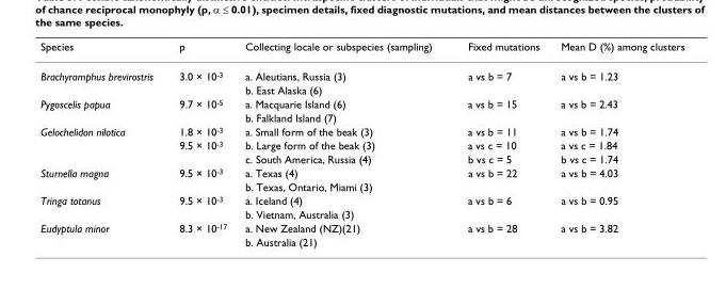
<table><thead><tr><td>Species</td><td>p</td><td>Collecting locale or subspecies (sampling)</td><td>Fixed mutations</td><td>Mean D (%) among clusters</td></tr></thead><tbody><tr><td rowspan="2">Brachyramphus brevirostris</td><td>3.0 × 10<sup>-3</sup></td><td>a. Aleutians, Russia (3)</td><td>a vs b = 7</td><td>a vs b = 1.23</td></tr><tr><td></td><td>b. East Alaska (6)</td><td></td><td></td></tr><tr><td rowspan="2">Pygoscelis papua</td><td>9.7 × 10<sup>-5</sup></td><td>a. Macquarie Island (6)</td><td>a vs b = 15</td><td>a vs b = 2.43</td></tr><tr><td></td><td>b. Falkland Island (7)</td><td></td><td></td></tr><tr><td rowspan="3">Gelochelidon nilotica</td><td>1.8 × 10<sup>-3</sup></td><td>a. Small form of the beak (3)</td><td>a vs b = 11</td><td>a vs b = 1.74</td></tr><tr><td>9.5 × 10<sup>-3</sup></td><td>b. Large form of the beak (3)</td><td>a vs c = 10</td><td>a vs c = 1.84</td></tr><tr><td></td><td>c. South America, Russia (4)</td><td>b vs c = 5</td><td>b vs c = 1.74</td></tr><tr><td rowspan="2">Sturnella magna</td><td>9.5 × 10<sup>-3</sup></td><td>a. Texas (4)</td><td>a vs b = 22</td><td>a vs b = 4.03</td></tr><tr><td></td><td>b. Texas, Ontario, Miami (3)</td><td></td><td></td></tr><tr><td rowspan="2">Tringa totanus</td><td>9.5 × 10<sup>-3</sup></td><td>a. Iceland (4)</td><td>a vs b = 6</td><td>a vs b = 0.95</td></tr><tr><td></td><td>b. Vietnam, Australia (3)</td><td></td><td></td></tr><tr><td rowspan="2">Eudyptula minor</td><td>8.3 × 10<sup>-17</sup></td><td>a. New Zealand (NZ)(21)</td><td>a vs b = 28</td><td>a vs b = 3.82</td></tr><tr><td></td><td>b. Australia (21)</td><td></td><td></td></tr></tbody></table>